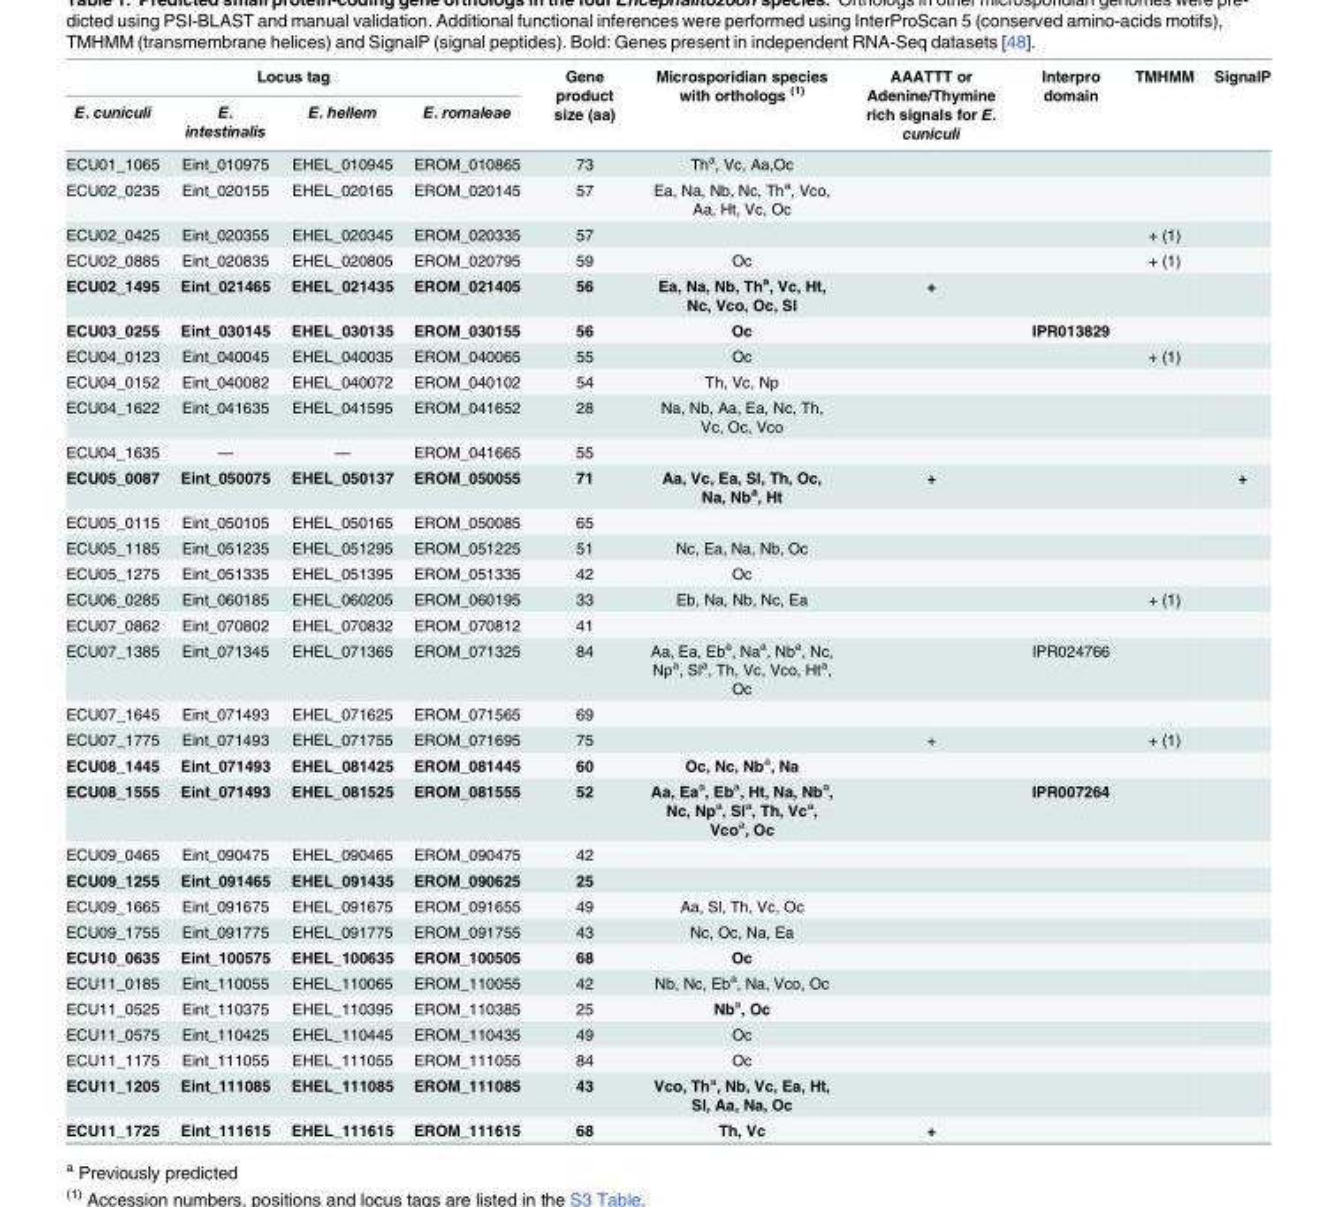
<table><thead><tr><td colspan="4">Locus tag</td><td rowspan="2">Gene product size (aa)</td><td rowspan="2">Microsporidian species with orthologs <sup>(1)</sup></td><td rowspan="2">AAATTT or Adenine/Thymine rich signals for E. cuniculi</td><td rowspan="2">Interpro domain</td><td rowspan="2">TMHMM</td><td rowspan="2">SignalP</td></tr><tr><td>E. cuniculi</td><td>E. intestinalis</td><td>E. hellem</td><td>E. romaleae</td></tr></thead><tbody><tr><td>ECU01_1065</td><td>Eint_010975</td><td>EHEL_010945</td><td>EROM_010865</td><td>73</td><td>Th<sup>a</sup>, Vc, Aa,Oc</td><td></td><td></td><td></td><td></td></tr><tr><td>ECU02_0235</td><td>Eint_020155</td><td>EHEL_020165</td><td>EROM_020145</td><td>57</td><td>Ea, Na, Nb, Nc, Th<sup>a</sup>, Vco, Aa, Ht, Vc, Oc</td><td></td><td></td><td></td><td></td></tr><tr><td>ECU02_0425</td><td>Eint_020355</td><td>EHEL_020345</td><td>EROM_020335</td><td>57</td><td></td><td></td><td></td><td>+ (1)</td><td></td></tr><tr><td>ECU02_0885</td><td>Eint_020835</td><td>EHEL_020805</td><td>EROM_020795</td><td>59</td><td>Oc</td><td></td><td></td><td>+ (1)</td><td></td></tr><tr><td>ECU02_1495</td><td>Eint_021465</td><td>EHEL_021435</td><td>EROM_021405</td><td>56</td><td>Ea, Na, Nb, Th<sup>a</sup>, Vc, Ht, Nc, Vco, Oc, Sl</td><td>+</td><td></td><td></td><td></td></tr><tr><td>ECU03_0255</td><td>Eint_030145</td><td>EHEL_030135</td><td>EROM_030155</td><td>56</td><td>Oc</td><td></td><td>IPR013829</td><td></td><td></td></tr><tr><td>ECU04_0123</td><td>Eint_040045</td><td>EHEL_040035</td><td>EROM_040065</td><td>55</td><td>Oc</td><td></td><td></td><td>+ (1)</td><td></td></tr><tr><td>ECU04_0152</td><td>Eint_040082</td><td>EHEL_040072</td><td>EROM_040102</td><td>54</td><td>Th, Vc, Np</td><td></td><td></td><td></td><td></td></tr><tr><td>ECU04_1622</td><td>Eint_041635</td><td>EHEL_041595</td><td>EROM_041652</td><td>28</td><td>Na, Nb, Aa, Ea, Nc, Th, Vc, Oc, Vco</td><td></td><td></td><td></td><td></td></tr><tr><td>ECU04_1635</td><td>—</td><td>—</td><td>EROM_041665</td><td>55</td><td></td><td></td><td></td><td></td><td></td></tr><tr><td>ECU05_0087</td><td>Eint_050075</td><td>EHEL_050137</td><td>EROM_050055</td><td>71</td><td>Aa, Vc, Ea, Sl, Th, Oc, Na, Nb<sup>a</sup>, Ht</td><td>+</td><td></td><td></td><td>+</td></tr><tr><td>ECU05_0115</td><td>Eint_050105</td><td>EHEL_050165</td><td>EROM_050085</td><td>65</td><td></td><td></td><td></td><td></td><td></td></tr><tr><td>ECU05_1185</td><td>Eint_051235</td><td>EHEL_051295</td><td>EROM_051225</td><td>51</td><td>Nc, Ea, Na, Nb, Oc</td><td></td><td></td><td></td><td></td></tr><tr><td>ECU05_1275</td><td>Eint_051335</td><td>EHEL_051395</td><td>EROM_051335</td><td>42</td><td>Oc</td><td></td><td></td><td></td><td></td></tr><tr><td>ECU06_0285</td><td>Eint_060185</td><td>EHEL_060205</td><td>EROM_060195</td><td>33</td><td>Eb, Na, Nb, Nc, Ea</td><td></td><td></td><td>+ (1)</td><td></td></tr><tr><td>ECU07_0862</td><td>Eint_070802</td><td>EHEL_070832</td><td>EROM_070812</td><td>41</td><td></td><td></td><td></td><td></td><td></td></tr><tr><td>ECU07_1385</td><td>Eint_071345</td><td>EHEL_071365</td><td>EROM_071325</td><td>84</td><td>Aa, Ea, Eb<sup>a</sup>, Na<sup>a</sup>, Nb<sup>a</sup>, Nc, Np<sup>a</sup>, Sl<sup>a</sup>, Th, Vc, Vco, Ht<sup>a</sup>, Oc</td><td></td><td>IPR024766</td><td></td><td></td></tr><tr><td>ECU07_1645</td><td>Eint_071493</td><td>EHEL_071625</td><td>EROM_071565</td><td>69</td><td></td><td></td><td></td><td></td><td></td></tr><tr><td>ECU07_1775</td><td>Eint_071493</td><td>EHEL_071755</td><td>EROM_071695</td><td>75</td><td></td><td>+</td><td></td><td>+ (1)</td><td></td></tr><tr><td>ECU08_1445</td><td>Eint_071493</td><td>EHEL_081425</td><td>EROM_081445</td><td>60</td><td>Oc, Nc, Nb<sup>a</sup>, Na</td><td></td><td></td><td></td><td></td></tr><tr><td>ECU08_1555</td><td>Eint_071493</td><td>EHEL_081525</td><td>EROM_081555</td><td>52</td><td>Aa, Ea<sup>a</sup>, Eb<sup>a</sup>, Ht, Na, Nb<sup>a</sup>, Nc, Np<sup>a</sup>, Sl<sup>a</sup>, Th, Vc<sup>a</sup>, Vco<sup>a</sup>, Oc</td><td></td><td>IPR007264</td><td></td><td></td></tr><tr><td>ECU09_0465</td><td>Eint_090475</td><td>EHEL_090465</td><td>EROM_090475</td><td>42</td><td></td><td></td><td></td><td></td><td></td></tr><tr><td>ECU09_1255</td><td>Eint_091465</td><td>EHEL_091435</td><td>EROM_090625</td><td>25</td><td></td><td></td><td></td><td></td><td></td></tr><tr><td>ECU09_1665</td><td>Eint_091675</td><td>EHEL_091675</td><td>EROM_091655</td><td>49</td><td>Aa, Sl, Th, Vc, Oc</td><td></td><td></td><td></td><td></td></tr><tr><td>ECU09_1755</td><td>Eint_091775</td><td>EHEL_091775</td><td>EROM_091755</td><td>43</td><td>Nc, Oc, Na, Ea</td><td></td><td></td><td></td><td></td></tr><tr><td>ECU10_0635</td><td>Eint_100575</td><td>EHEL_100635</td><td>EROM_100505</td><td>68</td><td>Oc</td><td></td><td></td><td></td><td></td></tr><tr><td>ECU11_0185</td><td>Eint_110055</td><td>EHEL_110065</td><td>EROM_110055</td><td>42</td><td>Nb, Nc, Eb<sup>a</sup>, Na, Vco, Oc</td><td></td><td></td><td></td><td></td></tr><tr><td>ECU11_0525</td><td>Eint_110375</td><td>EHEL_110395</td><td>EROM_110385</td><td>25</td><td>Nb<sup>a</sup>, Oc</td><td></td><td></td><td></td><td></td></tr><tr><td>ECU11_0575</td><td>Eint_110425</td><td>EHEL_110445</td><td>EROM_110435</td><td>49</td><td>Oc</td><td></td><td></td><td></td><td></td></tr><tr><td>ECU11_1175</td><td>Eint_111055</td><td>EHEL_111055</td><td>EROM_111055</td><td>84</td><td>Oc</td><td></td><td></td><td></td><td></td></tr><tr><td>ECU11_1205</td><td>Eint_111085</td><td>EHEL_111085</td><td>EROM_111085</td><td>43</td><td>Vco, Th<sup>a</sup>, Nb, Vc, Ea, Ht, Sl, Aa, Na, Oc</td><td></td><td></td><td></td><td></td></tr><tr><td>ECU11_1725</td><td>Eint_111615</td><td>EHEL_111615</td><td>EROM_111615</td><td>68</td><td>Th, Vc</td><td>+</td><td></td><td></td><td></td></tr></tbody></table>